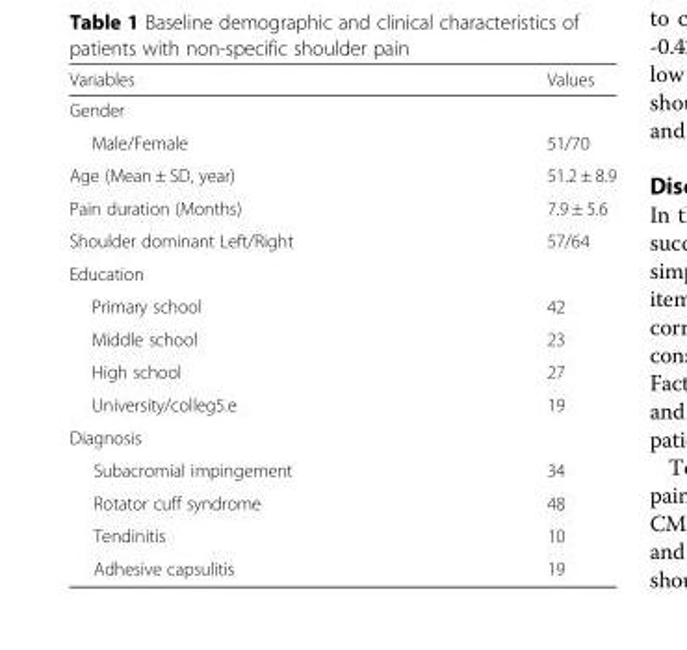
<table><thead><tr><td>Variables</td><td>Values</td></tr></thead><tbody><tr><td colspan="2">Gender</td></tr><tr><td>Male/Female</td><td>51/70</td></tr><tr><td>Age (Mean ± SD, year)</td><td>51.2 ± 8.9</td></tr><tr><td>Pain duration (Months)</td><td>7.9 ± 5.6</td></tr><tr><td>Shoulder dominant Left/Right</td><td>57/64</td></tr><tr><td colspan="2">Education</td></tr><tr><td>Primary school</td><td>42</td></tr><tr><td>Middle school</td><td>23</td></tr><tr><td>High school</td><td>27</td></tr><tr><td>University/colleg5.e</td><td>19</td></tr><tr><td colspan="2">Diagnosis</td></tr><tr><td>Subacromial impingement</td><td>34</td></tr><tr><td>Rotator cuff syndrome</td><td>48</td></tr><tr><td>Tendinitis</td><td>10</td></tr><tr><td>Adhesive capsulitis</td><td>19</td></tr></tbody></table>